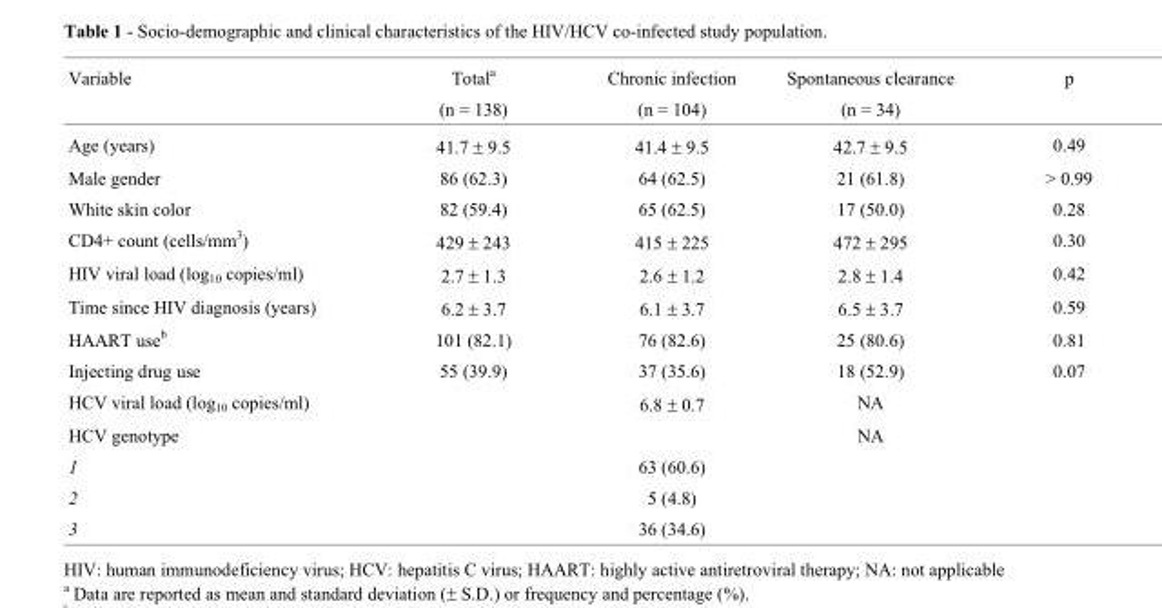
<table><thead><tr><td rowspan="2">Variable</td><td rowspan="2">Total<sup>a</sup> (n = 138)</td><td rowspan="2">Chronic infection (n = 104)</td><td rowspan="2">Spontaneous clearance (n = 34)</td><td rowspan="2">p</td></tr><tr></tr></thead><tbody><tr><td>Age (years)</td><td>41.7 ± 9.5</td><td>41.4 ± 9.5</td><td>42.7 ± 9.5</td><td>0.49</td></tr><tr><td>Male gender</td><td>86 (62.3)</td><td>64 (62.5)</td><td>21 (61.8)</td><td>&gt; 0.99</td></tr><tr><td>White skin color</td><td>82 (59.4)</td><td>65 (62.5)</td><td>17 (50.0)</td><td>0.28</td></tr><tr><td>CD4+ count (cells/mm<sup>3</sup>)</td><td>429 ± 243</td><td>415 ± 225</td><td>472 ± 295</td><td>0.30</td></tr><tr><td>HIV viral load (log<sub>10</sub> copies/ml)</td><td>2.7 ± 1.3</td><td>2.6 ± 1.2</td><td>2.8 ± 1.4</td><td>0.42</td></tr><tr><td>Time since HIV diagnosis (years)</td><td>6.2 ± 3.7</td><td>6.1 ± 3.7</td><td>6.5 ± 3.7</td><td>0.59</td></tr><tr><td>HAART use<sup>b</sup></td><td>101 (82.1)</td><td>76 (82.6)</td><td>25 (80.6)</td><td>0.81</td></tr><tr><td>Injecting drug use</td><td>55 (39.9)</td><td>37 (35.6)</td><td>18 (52.9)</td><td>0.07</td></tr><tr><td>HCV viral load (log<sub>10</sub> copies/ml)</td><td></td><td>6.8 ± 0.7</td><td>NA</td><td></td></tr><tr><td>HCV genotype</td><td></td><td></td><td>NA</td><td></td></tr><tr><td>1</td><td></td><td>63 (60.6)</td><td></td><td></td></tr><tr><td>2</td><td></td><td>5 (4.8)</td><td></td><td></td></tr><tr><td>3</td><td></td><td>36 (34.6)</td><td></td><td></td></tr></tbody></table>